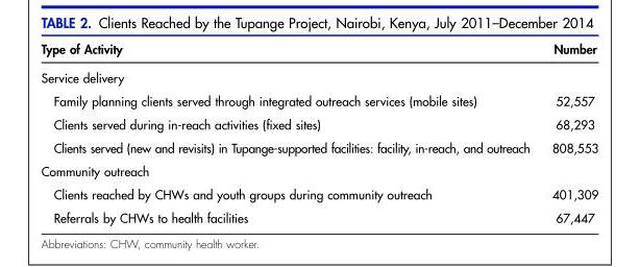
<table><thead><tr><td>Type of Activity</td><td>Number</td></tr></thead><tbody><tr><td colspan="2">Service delivery</td></tr><tr><td>Family planning clients served through integrated outreach services (mobile sites)</td><td>52,557</td></tr><tr><td>Clients served during in-reach activities (fixed sites)</td><td>68,293</td></tr><tr><td>Clients served (new and revisits) in Tupange-supported facilities: facility, in-reach, and outreach</td><td>808,553</td></tr><tr><td colspan="2">Community outreach</td></tr><tr><td>Clients reached by CHWs and youth groups during community outreach</td><td>401,309</td></tr><tr><td>Referrals by CHWs to health facilities</td><td>67,447</td></tr></tbody></table>